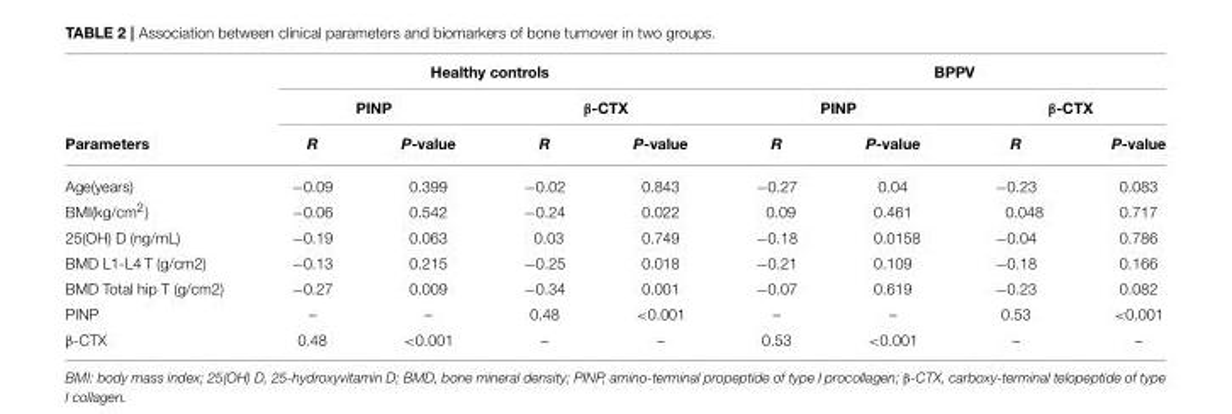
<table><thead><tr><td rowspan="3">Parameters</td><td colspan="4">Healthy controls</td><td colspan="4">BPPV</td></tr><tr><td colspan="2">PINP</td><td colspan="2">β-CTX</td><td colspan="2">PINP</td><td colspan="2">β-CTX</td></tr><tr><td>R</td><td>P-value</td><td>R</td><td>P-value</td><td>R</td><td>P-value</td><td>R</td><td>P-value</td></tr></thead><tbody><tr><td>Age(years)</td><td>−0.09</td><td>0.399</td><td>−0.02</td><td>0.843</td><td>−0.27</td><td>0.04</td><td>−0.23</td><td>0.083</td></tr><tr><td>BMI(kg/cm<sup>2</sup>)</td><td>−0.06</td><td>0.542</td><td>−0.24</td><td>0.022</td><td>0.09</td><td>0.461</td><td>0.048</td><td>0.717</td></tr><tr><td>25(OH) D (ng/mL)</td><td>−0.19</td><td>0.063</td><td>0.03</td><td>0.749</td><td>−0.18</td><td>0.0158</td><td>−0.04</td><td>0.786</td></tr><tr><td>BMD L1-L4 T (g/cm2)</td><td>−0.13</td><td>0.215</td><td>−0.25</td><td>0.018</td><td>−0.21</td><td>0.109</td><td>−0.18</td><td>0.166</td></tr><tr><td>BMD Total hip T (g/cm2)</td><td>−0.27</td><td>0.009</td><td>−0.34</td><td>0.001</td><td>−0.07</td><td>0.619</td><td>−0.23</td><td>0.082</td></tr><tr><td>PINP</td><td>–</td><td>–</td><td>0.48</td><td>&lt;0.001</td><td>–</td><td>–</td><td>0.53</td><td>&lt;0.001</td></tr><tr><td>β-CTX</td><td>0.48</td><td>&lt;0.001</td><td>–</td><td>–</td><td>0.53</td><td>&lt;0.001</td><td>–</td><td>–</td></tr></tbody></table>